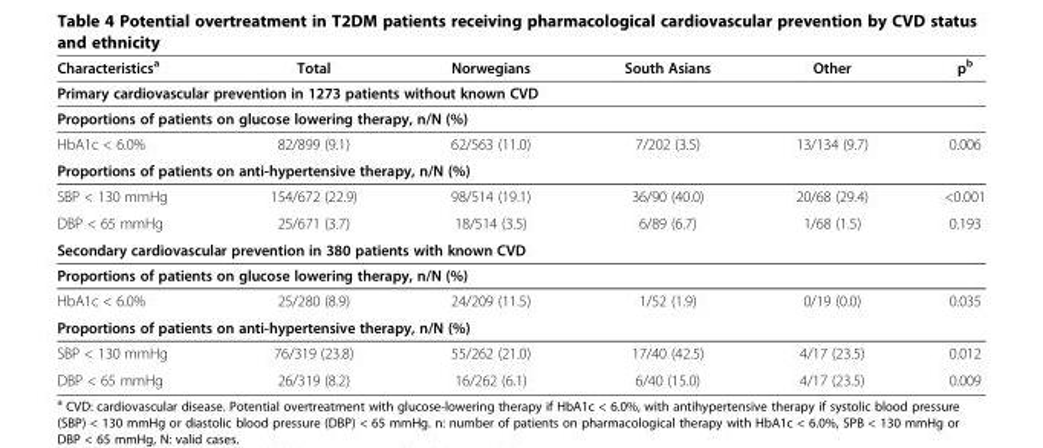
<table><thead><tr><td>Characteristics<sup>a</sup></td><td>Total</td><td>Norwegians</td><td>South Asians</td><td>Other</td><td>p<sup>b</sup></td></tr></thead><tbody><tr><td colspan="6">Primary cardiovascular prevention in 1273 patients without known CVD</td></tr><tr><td colspan="6">Proportions of patients on glucose lowering therapy, n/N (%)</td></tr><tr><td>HbA1c &lt; 6.0%</td><td>82/899 (9.1)</td><td>62/563 (11.0)</td><td>7/202 (3.5)</td><td>13/134 (9.7)</td><td>0.006</td></tr><tr><td colspan="6">Proportions of patients on anti-hypertensive therapy, n/N (%)</td></tr><tr><td>SBP &lt; 130 mmHg</td><td>154/672 (22.9)</td><td>98/514 (19.1)</td><td>36/90 (40.0)</td><td>20/68 (29.4)</td><td>&lt;0.001</td></tr><tr><td>DBP &lt; 65 mmHg</td><td>25/671 (3.7)</td><td>18/514 (3.5)</td><td>6/89 (6.7)</td><td>1/68 (1.5)</td><td>0.193</td></tr><tr><td colspan="6">Secondary cardiovascular prevention in 380 patients with known CVD</td></tr><tr><td colspan="6">Proportions of patients on glucose lowering therapy, n/N (%)</td></tr><tr><td>HbA1c &lt; 6.0%</td><td>25/280 (8.9)</td><td>24/209 (11.5)</td><td>1/52 (1.9)</td><td>0/19 (0.0)</td><td>0.035</td></tr><tr><td colspan="6">Proportions of patients on anti-hypertensive therapy, n/N (%)</td></tr><tr><td>SBP &lt; 130 mmHg</td><td>76/319 (23.8)</td><td>55/262 (21.0)</td><td>17/40 (42.5)</td><td>4/17 (23.5)</td><td>0.012</td></tr><tr><td>DBP &lt; 65 mmHg</td><td>26/319 (8.2)</td><td>16/262 (6.1)</td><td>6/40 (15.0)</td><td>4/17 (23.5)</td><td>0.009</td></tr></tbody></table>